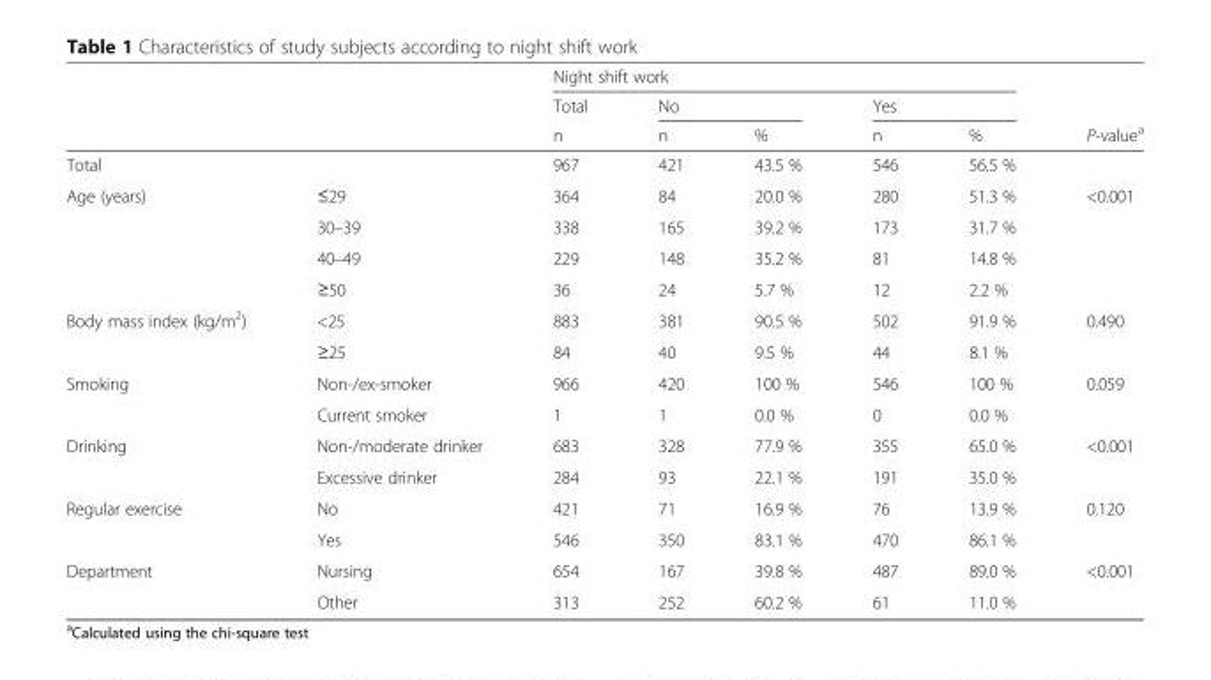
<table><thead><tr><td rowspan="3"></td><td rowspan="3"></td><td colspan="5">Night shift work</td><td rowspan="3">P-value<sup>a</sup></td></tr><tr><td rowspan="2">Total n</td><td colspan="2">No</td><td colspan="2">Yes</td></tr><tr><td>n</td><td>%</td><td>n</td><td>%</td></tr></thead><tbody><tr><td>Total</td><td></td><td>967</td><td>421</td><td>43.5 %</td><td>546</td><td>56.5 %</td><td></td></tr><tr><td rowspan="4">Age (years)</td><td>≤29</td><td>364</td><td>84</td><td>20.0 %</td><td>280</td><td>51.3 %</td><td rowspan="4">&lt;0.001</td></tr><tr><td>30–39</td><td>338</td><td>165</td><td>39.2 %</td><td>173</td><td>31.7 %</td></tr><tr><td>40–49</td><td>229</td><td>148</td><td>35.2 %</td><td>81</td><td>14.8 %</td></tr><tr><td>≥50</td><td>36</td><td>24</td><td>5.7 %</td><td>12</td><td>2.2 %</td></tr><tr><td rowspan="2">Body mass index (kg/m<sup>2</sup>)</td><td>&lt;25</td><td>883</td><td>381</td><td>90.5 %</td><td>502</td><td>91.9 %</td><td rowspan="2">0.490</td></tr><tr><td>≥25</td><td>84</td><td>40</td><td>9.5 %</td><td>44</td><td>8.1 %</td></tr><tr><td rowspan="2">Smoking</td><td>Non-/ex-smoker</td><td>966</td><td>420</td><td>100 %</td><td>546</td><td>100 %</td><td rowspan="2">0.059</td></tr><tr><td>Current smoker</td><td>1</td><td>1</td><td>0.0 %</td><td>0</td><td>0.0 %</td></tr><tr><td rowspan="2">Drinking</td><td>Non-/moderate drinker</td><td>683</td><td>328</td><td>77.9 %</td><td>355</td><td>65.0 %</td><td rowspan="2">&lt;0.001</td></tr><tr><td>Excessive drinker</td><td>284</td><td>93</td><td>22.1 %</td><td>191</td><td>35.0 %</td></tr><tr><td rowspan="2">Regular exercise</td><td>No</td><td>421</td><td>71</td><td>16.9 %</td><td>76</td><td>13.9 %</td><td rowspan="2">0.120</td></tr><tr><td>Yes</td><td>546</td><td>350</td><td>83.1 %</td><td>470</td><td>86.1 %</td></tr><tr><td rowspan="2">Department</td><td>Nursing</td><td>654</td><td>167</td><td>39.8 %</td><td>487</td><td>89.0 %</td><td rowspan="2">&lt;0.001</td></tr><tr><td>Other</td><td>313</td><td>252</td><td>60.2 %</td><td>61</td><td>11.0 %</td></tr></tbody></table>